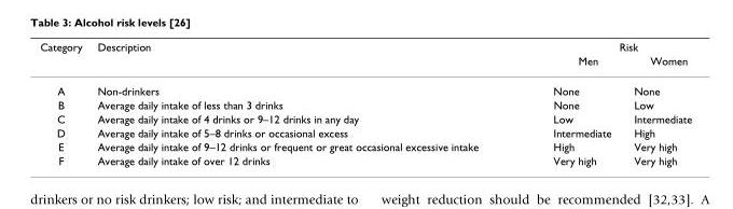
<table><thead><tr><td rowspan="2">Category</td><td rowspan="2">Description</td><td colspan="2">Risk</td></tr><tr><td>Men</td><td>Women</td></tr></thead><tbody><tr><td>A</td><td>Non-drinkers</td><td>None</td><td>None</td></tr><tr><td>B</td><td>Average daily intake of less than 3 drinks</td><td>None</td><td>Low</td></tr><tr><td>C</td><td>Average daily intake of 4 drinks or 9–12 drinks in any day</td><td>Low</td><td>Intermediate</td></tr><tr><td>D</td><td>Average daily intake of 5–8 drinks or occasional excess</td><td>Intermediate</td><td>High</td></tr><tr><td>E</td><td>Average daily intake of 9–12 drinks or frequent or great occasional excessive intake</td><td>High</td><td>Very high</td></tr><tr><td>F</td><td>Average daily intake of over 12 drinks</td><td>Very high</td><td>Very high</td></tr></tbody></table>